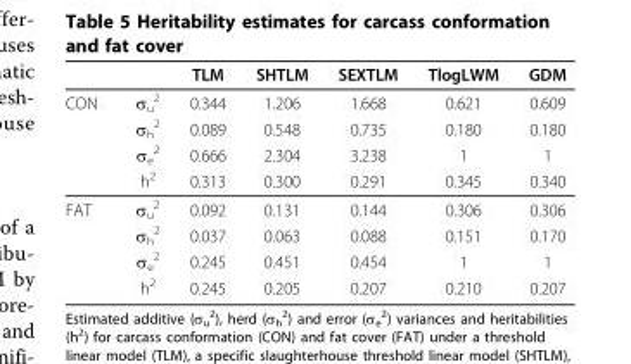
<table><thead><tr><td></td><td></td><td>TLM</td><td>SHTLM</td><td>SEXTLM</td><td>TlogLWM</td><td>GDM</td></tr></thead><tbody><tr><td rowspan="4">CON</td><td>σ<sub>u</sub> <sup>2</sup></td><td>0.344</td><td>1.206</td><td>1.668</td><td>0.621</td><td>0.609</td></tr><tr><td>σ<sub>h</sub> <sup>2</sup></td><td>0.089</td><td>0.548</td><td>0.735</td><td>0.180</td><td>0.180</td></tr><tr><td>σ<sub>e</sub> <sup>2</sup></td><td>0.666</td><td>2.304</td><td>3.238</td><td>1</td><td>1</td></tr><tr><td>h<sup>2</sup></td><td>0.313</td><td>0.300</td><td>0.291</td><td>0.345</td><td>0.340</td></tr><tr><td rowspan="4">FAT</td><td>σ<sub>u</sub> <sup>2</sup></td><td>0.092</td><td>0.131</td><td>0.144</td><td>0.306</td><td>0.306</td></tr><tr><td>σ<sub>h</sub> <sup>2</sup></td><td>0.037</td><td>0.063</td><td>0.088</td><td>0.151</td><td>0.170</td></tr><tr><td>σ<sub>e</sub> <sup>2</sup></td><td>0.245</td><td>0.451</td><td>0.454</td><td>1</td><td>1</td></tr><tr><td>h<sup>2</sup></td><td>0.245</td><td>0.205</td><td>0.207</td><td>0.210</td><td>0.207</td></tr></tbody></table>